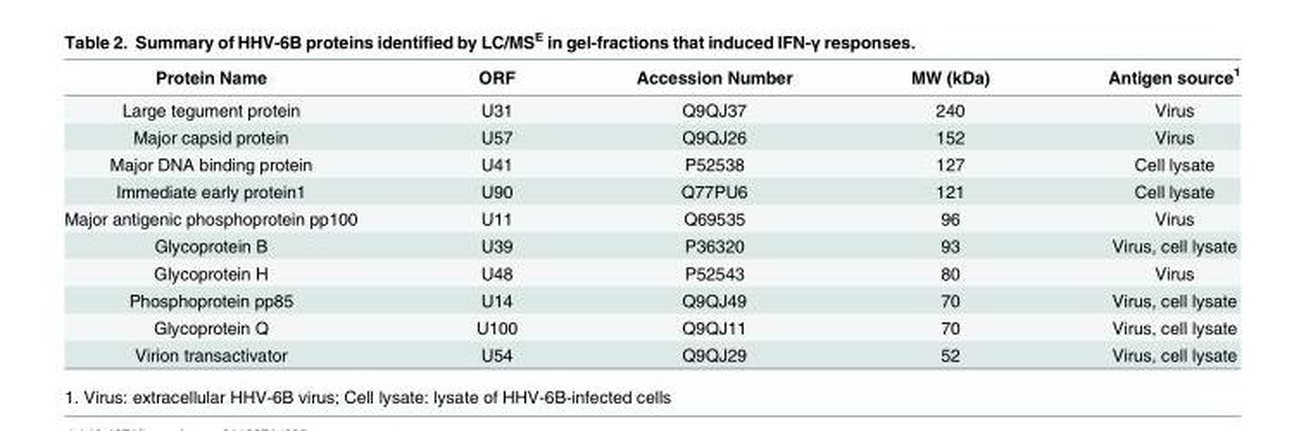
<table><thead><tr><td>Protein Name</td><td>ORF</td><td>Accession Number</td><td>MW (kDa)</td><td>Antigen source<sup>1</sup></td></tr></thead><tbody><tr><td>Large tegument protein</td><td>U31</td><td>Q9QJ37</td><td>240</td><td>Virus</td></tr><tr><td>Major capsid protein</td><td>U57</td><td>Q9QJ26</td><td>152</td><td>Virus</td></tr><tr><td>Major DNA binding protein</td><td>U41</td><td>P52538</td><td>127</td><td>Cell lysate</td></tr><tr><td>Immediate early protein1</td><td>U90</td><td>Q77PU6</td><td>121</td><td>Cell lysate</td></tr><tr><td>Major antigenic phosphoprotein pp100</td><td>U11</td><td>Q69535</td><td>96</td><td>Virus</td></tr><tr><td>Glycoprotein B</td><td>U39</td><td>P36320</td><td>93</td><td>Virus, cell lysate</td></tr><tr><td>Glycoprotein H</td><td>U48</td><td>P52543</td><td>80</td><td>Virus</td></tr><tr><td>Phosphoprotein pp85</td><td>U14</td><td>Q9QJ49</td><td>70</td><td>Virus, cell lysate</td></tr><tr><td>Glycoprotein Q</td><td>U100</td><td>Q9QJ11</td><td>70</td><td>Virus, cell lysate</td></tr><tr><td>Virion transactivator</td><td>U54</td><td>Q9QJ29</td><td>52</td><td>Virus, cell lysate</td></tr></tbody></table>